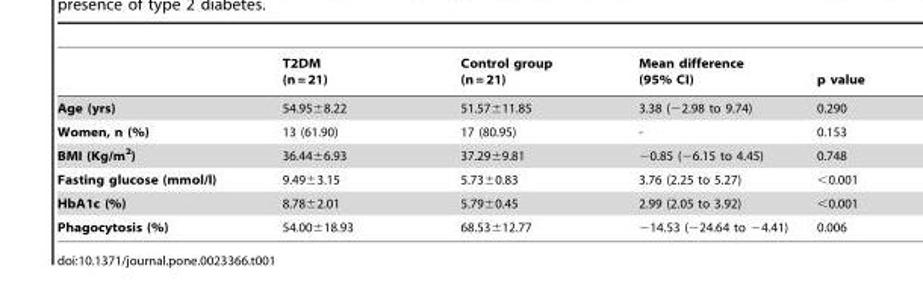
<table><thead><tr><td></td><td>T2DM (n = 21)</td><td>Control group (n = 21)</td><td>Mean difference (95% CI)</td><td>p value</td></tr></thead><tbody><tr><td>Age (yrs)</td><td>54.95±8.22</td><td>51.57±11.85</td><td>3.38 (−2.98 to 9.74)</td><td>0.290</td></tr><tr><td>Women, n (%)</td><td>13 (61.90)</td><td>17 (80.95)</td><td>-</td><td>0.153</td></tr><tr><td>BMI (Kg/m<sup>2</sup>)</td><td>36.44±6.93</td><td>37.29±9.81</td><td>−0.85 (−6.15 to 4.45)</td><td>0.748</td></tr><tr><td>Fasting glucose (mmol/l)</td><td>9.49±3.15</td><td>5.73±0.83</td><td>3.76 (2.25 to 5.27)</td><td>&lt;0.001</td></tr><tr><td>HbA1c (%)</td><td>8.78±2.01</td><td>5.79±0.45</td><td>2.99 (2.05 to 3.92)</td><td>&lt;0.001</td></tr><tr><td>Phagocytosis (%)</td><td>54.00±18.93</td><td>68.53±12.77</td><td>−14.53 (−24.64 to −4.41)</td><td>0.006</td></tr></tbody></table>